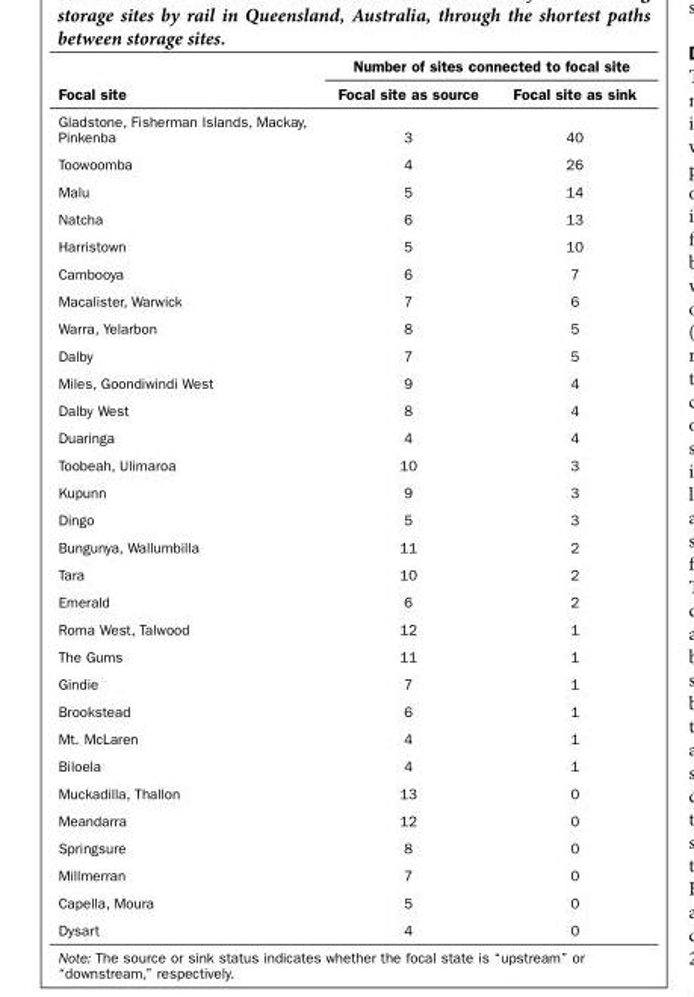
<table><thead><tr><td rowspan="2">Focal site</td><td colspan="2">Number of sites connected to focal site</td></tr><tr><td>Focal site as source</td><td>Focal site as sink</td></tr></thead><tbody><tr><td>Gladstone, Fisherman Islands, Mackay, Pinkenba</td><td>3</td><td>40</td></tr><tr><td>Toowoomba</td><td>4</td><td>26</td></tr><tr><td>Malu</td><td>5</td><td>14</td></tr><tr><td>Natcha</td><td>6</td><td>13</td></tr><tr><td>Harristown</td><td>5</td><td>10</td></tr><tr><td>Cambooya</td><td>6</td><td>7</td></tr><tr><td>Macalister, Warwick</td><td>7</td><td>6</td></tr><tr><td>Warra, Yelarbon</td><td>8</td><td>5</td></tr><tr><td>Dalby</td><td>7</td><td>5</td></tr><tr><td>Miles, Goondiwindi West</td><td>9</td><td>4</td></tr><tr><td>Dalby West</td><td>8</td><td>4</td></tr><tr><td>Duaringa</td><td>4</td><td>4</td></tr><tr><td>Toobeah, Ulimaroa</td><td>10</td><td>3</td></tr><tr><td>Kupunn</td><td>9</td><td>3</td></tr><tr><td>Dingo</td><td>5</td><td>3</td></tr><tr><td>Bungunya, Wallumbilla</td><td>11</td><td>2</td></tr><tr><td>Tara</td><td>10</td><td>2</td></tr><tr><td>Emerald</td><td>6</td><td>2</td></tr><tr><td>Roma West, Talwood</td><td>12</td><td>1</td></tr><tr><td>The Gums</td><td>11</td><td>1</td></tr><tr><td>Gindie</td><td>7</td><td>1</td></tr><tr><td>Brookstead</td><td>6</td><td>1</td></tr><tr><td>Mt. McLaren</td><td>4</td><td>1</td></tr><tr><td>Biloela</td><td>4</td><td>1</td></tr><tr><td>Muckadilla, Thallon</td><td>13</td><td>0</td></tr><tr><td>Meandarra</td><td>12</td><td>0</td></tr><tr><td>Springsure</td><td>8</td><td>0</td></tr><tr><td>Millmerran</td><td>7</td><td>0</td></tr><tr><td>Capella, Moura</td><td>5</td><td>0</td></tr><tr><td>Dysart</td><td>4</td><td>0</td></tr></tbody></table>